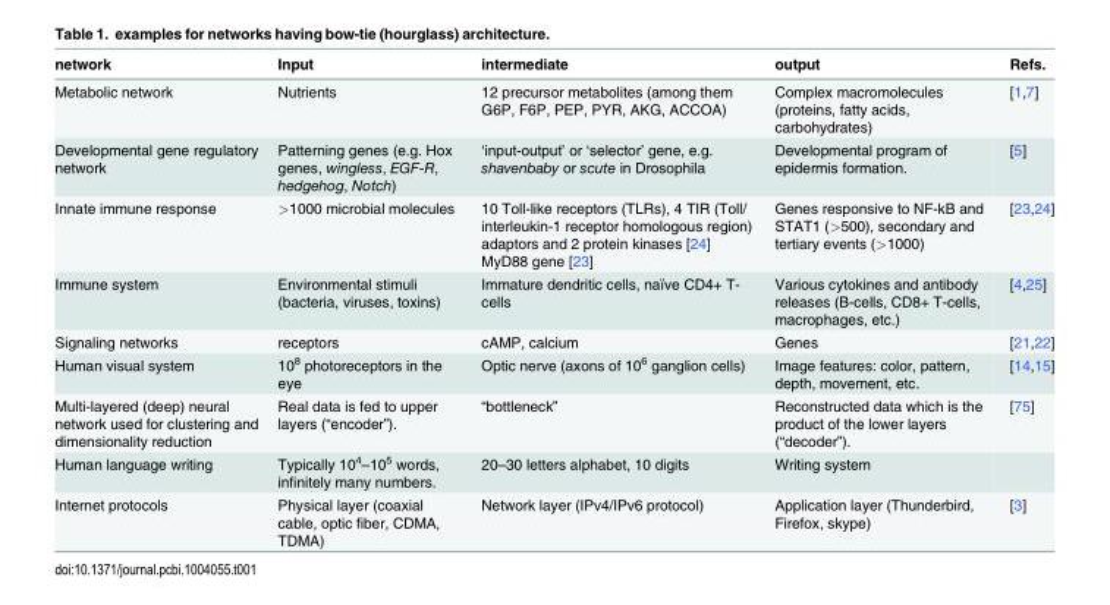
<table><thead><tr><td>network</td><td>Input</td><td>intermediate</td><td>output</td><td>Refs.</td></tr></thead><tbody><tr><td>Metabolic network</td><td>Nutrients</td><td>12 precursor metabolites (among them G6P, F6P, PEP, PYR, AKG, ACCOA)</td><td>Complex macromolecules (proteins, fatty acids, carbohydrates)</td><td>[1,7]</td></tr><tr><td>Developmental gene regulatory network</td><td>Patterning genes (e.g. Hox genes, wingless, EGF-R, hedgehog, Notch)</td><td>‘input-output’ or ‘selector’ gene, e.g. shavenbaby or scute in Drosophila</td><td>Developmental program of epidermis formation.</td><td>[5]</td></tr><tr><td>Innate immune response</td><td>&gt;1000 microbial molecules</td><td>10 Toll-like receptors (TLRs), 4 TIR (Toll/ interleukin-1 receptor homologous region) adaptors and 2 protein kinases [24] MyD88 gene [23]</td><td>Genes responsive to NF-kB and STAT1 (&gt;500), secondary and tertiary events (&gt;1000)</td><td>[23,24]</td></tr><tr><td>Immune system</td><td>Environmental stimuli (bacteria, viruses, toxins)</td><td>Immature dendritic cells, naïve CD4+ T- cells</td><td>Various cytokines and antibody releases (B-cells, CD8+ T-cells, macrophages, etc.)</td><td>[4,25]</td></tr><tr><td>Signaling networks</td><td>receptors</td><td>cAMP, calcium</td><td>Genes</td><td>[21,22]</td></tr><tr><td>Human visual system</td><td>10<sup>8</sup> photoreceptors in the eye</td><td>Optic nerve (axons of 10<sup>6</sup> ganglion cells)</td><td>Image features: color, pattern, depth, movement, etc.</td><td>[14,15]</td></tr><tr><td>Multi-layered (deep) neural network used for clustering and dimensionality reduction</td><td>Real data is fed to upper layers (“encoder”).</td><td>“bottleneck”</td><td>Reconstructed data which is the product of the lower layers (“decoder”).</td><td>[75]</td></tr><tr><td>Human language writing</td><td>Typically 10<sup>4</sup>–10<sup>5</sup> words, infinitely many numbers.</td><td>20–30 letters alphabet, 10 digits</td><td>Writing system</td><td></td></tr><tr><td>Internet protocols</td><td>Physical layer (coaxial cable, optic fiber, CDMA, TDMA)</td><td>Network layer (IPv4/IPv6 protocol)</td><td>Application layer (Thunderbird, Firefox, skype)</td><td>[3]</td></tr></tbody></table>